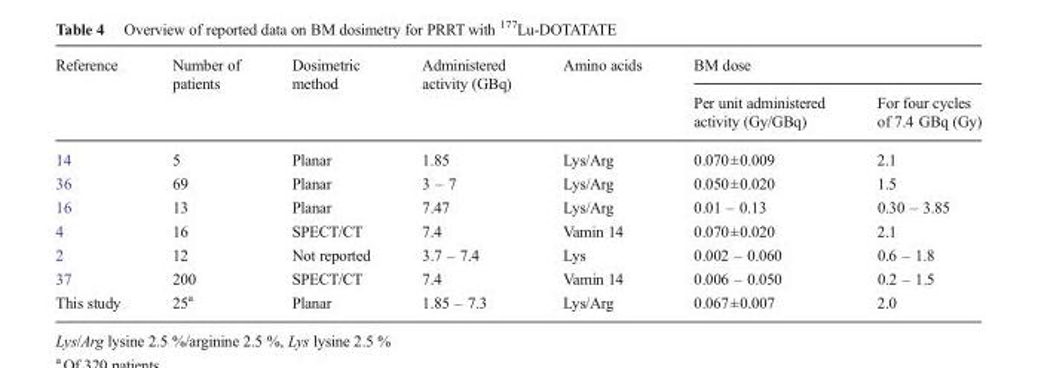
<table><thead><tr><td rowspan="2">Reference</td><td rowspan="2">Number of patients</td><td rowspan="2">Dosimetric method</td><td rowspan="2">Administered activity (GBq)</td><td rowspan="2">Amino acids</td><td colspan="2">BM dose</td></tr><tr><td>Per unit administered activity (Gy/GBq)</td><td>For four cycles of 7.4 GBq (Gy)</td></tr></thead><tbody><tr><td>14</td><td>5</td><td>Planar</td><td>1.85</td><td>Lys/Arg</td><td>0.070±0.009</td><td>2.1</td></tr><tr><td>36</td><td>69</td><td>Planar</td><td>3 – 7</td><td>Lys/Arg</td><td>0.050±0.020</td><td>1.5</td></tr><tr><td>16</td><td>13</td><td>Planar</td><td>7.47</td><td>Lys/Arg</td><td>0.01 – 0.13</td><td>0.30 – 3.85</td></tr><tr><td>4</td><td>16</td><td>SPECT/CT</td><td>7.4</td><td>Vamin 14</td><td>0.070±0.020</td><td>2.1</td></tr><tr><td>2</td><td>12</td><td>Not reported</td><td>3.7 – 7.4</td><td>Lys</td><td>0.002 – 0.060</td><td>0.6 – 1.8</td></tr><tr><td>37</td><td>200</td><td>SPECT/CT</td><td>7.4</td><td>Vamin 14</td><td>0.006 – 0.050</td><td>0.2 – 1.5</td></tr><tr><td>This study</td><td>25<sup>a</sup></td><td>Planar</td><td>1.85 – 7.3</td><td>Lys/Arg</td><td>0.067±0.007</td><td>2.0</td></tr></tbody></table>